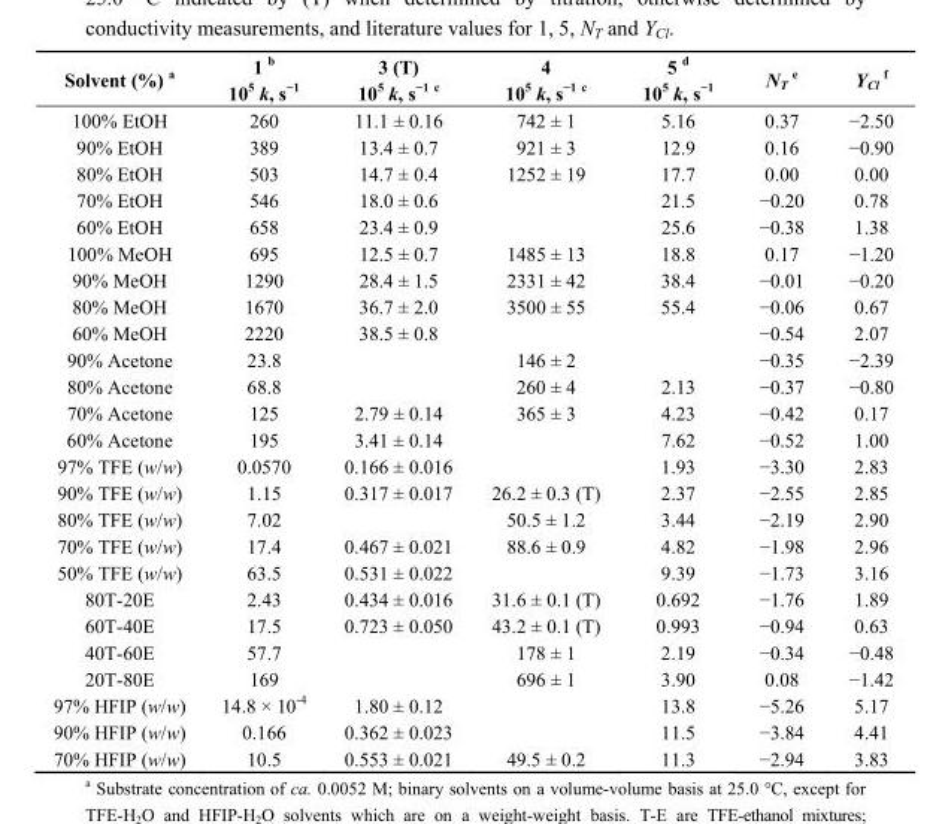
<table><thead><tr><td>Solvent (%) a</td><td>1 b 10<sup>5</sup> k, s<sup>−1</sup></td><td>3 (T) 10<sup>5</sup> k, s<sup>−1</sup> c</td><td>4 10<sup>5</sup> k, s<sup>−1</sup> c</td><td>5 d 10<sup>5</sup> k, s<sup>−1</sup></td><td>N<sub>T</sub> <sup>e</sup></td><td>Y<sub>Cl</sub> <sup>f</sup></td></tr></thead><tbody><tr><td>100% EtOH</td><td>260</td><td>11.1 ± 0.16</td><td>742 ± 1</td><td>5.16</td><td>0.37</td><td>−2.50</td></tr><tr><td>90% EtOH</td><td>389</td><td>13.4 ± 0.7</td><td>921 ± 3</td><td>12.9</td><td>0.16</td><td>−0.90</td></tr><tr><td>80% EtOH</td><td>503</td><td>14.7 ± 0.4</td><td>1252 ± 19</td><td>17.7</td><td>0.00</td><td>0.00</td></tr><tr><td>70% EtOH</td><td>546</td><td>18.0 ± 0.6</td><td></td><td>21.5</td><td>−0.20</td><td>0.78</td></tr><tr><td>60% EtOH</td><td>658</td><td>23.4 ± 0.9</td><td></td><td>25.6</td><td>−0.38</td><td>1.38</td></tr><tr><td>100% MeOH</td><td>695</td><td>12.5 ± 0.7</td><td>1485 ± 13</td><td>18.8</td><td>0.17</td><td>−1.20</td></tr><tr><td>90% MeOH</td><td>1290</td><td>28.4 ± 1.5</td><td>2331 ± 42</td><td>38.4</td><td>−0.01</td><td>−0.20</td></tr><tr><td>80% MeOH</td><td>1670</td><td>36.7 ± 2.0</td><td>3500 ± 55</td><td>55.4</td><td>−0.06</td><td>0.67</td></tr><tr><td>60% MeOH</td><td>2220</td><td>38.5 ± 0.8</td><td></td><td></td><td>−0.54</td><td>2.07</td></tr><tr><td>90% Acetone</td><td>23.8</td><td></td><td>146 ± 2</td><td></td><td>−0.35</td><td>−2.39</td></tr><tr><td>80% Acetone</td><td>68.8</td><td></td><td>260 ± 4</td><td>2.13</td><td>−0.37</td><td>−0.80</td></tr><tr><td>70% Acetone</td><td>125</td><td>2.79 ± 0.14</td><td>365 ± 3</td><td>4.23</td><td>−0.42</td><td>0.17</td></tr><tr><td>60% Acetone</td><td>195</td><td>3.41 ± 0.14</td><td></td><td>7.62</td><td>−0.52</td><td>1.00</td></tr><tr><td>97% TFE (w/w)</td><td>0.0570</td><td>0.166 ± 0.016</td><td></td><td>1.93</td><td>−3.30</td><td>2.83</td></tr><tr><td>90% TFE (w/w)</td><td>1.15</td><td>0.317 ± 0.017</td><td>26.2 ± 0.3 (T)</td><td>2.37</td><td>−2.55</td><td>2.85</td></tr><tr><td>80% TFE (w/w)</td><td>7.02</td><td></td><td>50.5 ± 1.2</td><td>3.44</td><td>−2.19</td><td>2.90</td></tr><tr><td>70% TFE (w/w)</td><td>17.4</td><td>0.467 ± 0.021</td><td>88.6 ± 0.9</td><td>4.82</td><td>−1.98</td><td>2.96</td></tr><tr><td>50% TFE (w/w)</td><td>63.5</td><td>0.531 ± 0.022</td><td></td><td>9.39</td><td>−1.73</td><td>3.16</td></tr><tr><td>80T-20E</td><td>2.43</td><td>0.434 ± 0.016</td><td>31.6 ± 0.1 (T)</td><td>0.692</td><td>−1.76</td><td>1.89</td></tr><tr><td>60T-40E</td><td>17.5</td><td>0.723 ± 0.050</td><td>43.2 ± 0.1 (T)</td><td>0.993</td><td>−0.94</td><td>0.63</td></tr><tr><td>40T-60E</td><td>57.7</td><td></td><td>178 ± 1</td><td>2.19</td><td>−0.34</td><td>−0.48</td></tr><tr><td>20T-80E</td><td>169</td><td></td><td>696 ± 1</td><td>3.90</td><td>0.08</td><td>−1.42</td></tr><tr><td>97% HFIP (w/w)</td><td>14.8 × 10<sup>-4</sup></td><td>1.80 ± 0.12</td><td></td><td>13.8</td><td>−5.26</td><td>5.17</td></tr><tr><td>90% HFIP (w/w)</td><td>0.166</td><td>0.362 ± 0.023</td><td></td><td>11.5</td><td>−3.84</td><td>4.41</td></tr><tr><td>70% HFIP (w/w)</td><td>10.5</td><td>0.553 ± 0.021</td><td>49.5 ± 0.2</td><td>11.3</td><td>−2.94</td><td>3.83</td></tr></tbody></table>